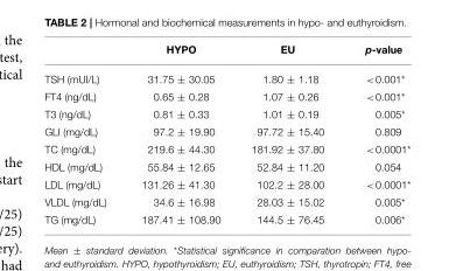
<table><thead><tr><td></td><td>HYPO</td><td>EU</td><td>p-value</td></tr></thead><tbody><tr><td>TSH (mUI/L)</td><td>31.75 ± 30.05</td><td>1.80 ± 1.18</td><td>&lt;0.001*</td></tr><tr><td>FT4 (ng/dL)</td><td>0.65 ± 0.28</td><td>1.07 ± 0.26</td><td>&lt;0.001*</td></tr><tr><td>T3 (ng/dL)</td><td>0.81 ± 0.33</td><td>1.01 ± 0.19</td><td>0.005*</td></tr><tr><td>GLI (mg/dL)</td><td>97.2 ± 19.90</td><td>97.72 ± 15.40</td><td>0.809</td></tr><tr><td>TC (mg/dL)</td><td>219.6 ± 44.30</td><td>181.92 ± 37.80</td><td>&lt;0.0001*</td></tr><tr><td>HDL (mg/dL)</td><td>55.84 ± 12.65</td><td>52.84 ± 11.20</td><td>0.054</td></tr><tr><td>LDL (mg/dL)</td><td>131.26 ± 41.30</td><td>102.2 ± 28.00</td><td>&lt;0.0001*</td></tr><tr><td>VLDL (mg/dL)</td><td>34.6 ± 16.98</td><td>28.03 ± 15.02</td><td>0.005*</td></tr><tr><td>TG (mg/dL)</td><td>187.41 ± 108.90</td><td>144.5 ± 76.45</td><td>0.006*</td></tr></tbody></table>